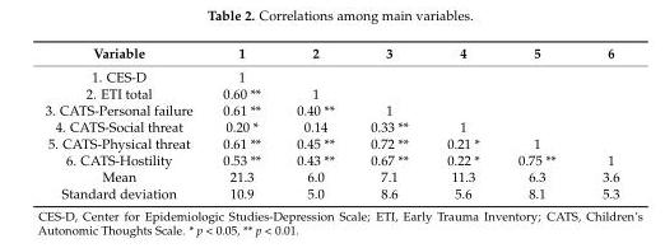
<table><thead><tr><td>Variable</td><td>1</td><td>2</td><td>3</td><td>4</td><td>5</td><td>6</td></tr></thead><tbody><tr><td>1. CES-D</td><td>1</td><td></td><td></td><td></td><td></td><td></td></tr><tr><td>2. ETI total</td><td>0.60 **</td><td>1</td><td></td><td></td><td></td><td></td></tr><tr><td>3. CATS-Personal failure</td><td>0.61 **</td><td>0.40 **</td><td>1</td><td></td><td></td><td></td></tr><tr><td>4. CATS-Social threat</td><td>0.20 *</td><td>0.14</td><td>0.33 **</td><td>1</td><td></td><td></td></tr><tr><td>5. CATS-Physical threat</td><td>0.61 **</td><td>0.45 **</td><td>0.72 **</td><td>0.21 *</td><td>1</td><td></td></tr><tr><td>6. CATS-Hostility</td><td>0.53 **</td><td>0.43 **</td><td>0.67 **</td><td>0.22 *</td><td>0.75 **</td><td>1</td></tr><tr><td>Mean</td><td>21.3</td><td>6.0</td><td>7.1</td><td>11.3</td><td>6.3</td><td>3.6</td></tr><tr><td>Standard deviation</td><td>10.9</td><td>5.0</td><td>8.6</td><td>5.6</td><td>8.1</td><td>5.3</td></tr></tbody></table>